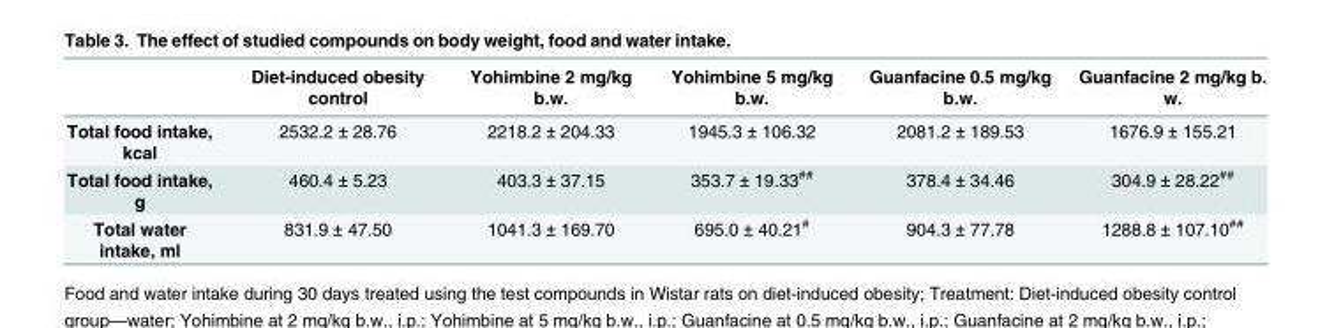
<table><thead><tr><td></td><td>Diet-induced obesity control</td><td>Yohimbine 2 mg/kg b.w.</td><td>Yohimbine 5 mg/kg b.w.</td><td>Guanfacine 0.5 mg/kg b.w.</td><td>Guanfacine 2 mg/kg b. w.</td></tr></thead><tbody><tr><td>Total food intake, kcal</td><td>2532.2 ± 28.76</td><td>2218.2 ± 204.33</td><td>1945.3 ± 106.32</td><td>2081.2 ± 189.53</td><td>1676.9 ± 155.21</td></tr><tr><td>Total food intake, g</td><td>460.4 ± 5.23</td><td>403.3 ± 37.15</td><td>353.7 ± 19.33<sup>##</sup></td><td>378.4 ± 34.46</td><td>304.9 ± 28.22<sup>##</sup></td></tr><tr><td>Total water intake, ml</td><td>831.9 ± 47.50</td><td>1041.3 ± 169.70</td><td>695.0 ± 40.21<sup>#</sup></td><td>904.3 ± 77.78</td><td>1288.8 ± 107.10<sup>##</sup></td></tr></tbody></table>